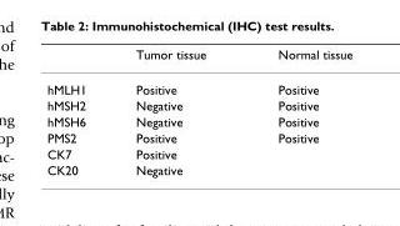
<table><thead><tr><td></td><td>Tumor tissue</td><td>Normal tissue</td></tr></thead><tbody><tr><td>hMLH1</td><td>Positive</td><td>Positive</td></tr><tr><td>hMSH2</td><td>Negative</td><td>Positive</td></tr><tr><td>hMSH6</td><td>Negative</td><td>Positive</td></tr><tr><td>PMS2</td><td>Positive</td><td>Positive</td></tr><tr><td>CK7</td><td>Positive</td><td></td></tr><tr><td>CK20</td><td>Negative</td><td></td></tr></tbody></table>